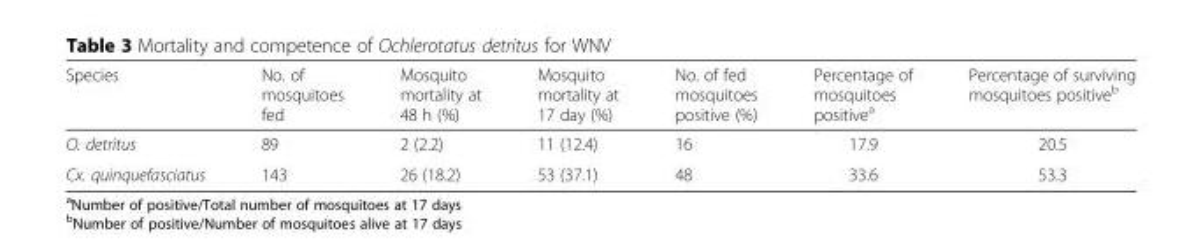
<table><thead><tr><td>Species</td><td>No. of mosquitoes fed</td><td>Mosquito mortality at 48 h (%)</td><td>Mosquito mortality at 17 day (%)</td><td>No. of fed mosquitoes positive (%)</td><td>Percentage of mosquitoes positive<sup>a</sup></td><td>Percentage of surviving mosquitoes positive<sup>b</sup></td></tr></thead><tbody><tr><td>O. detritus</td><td>89</td><td>2 (2.2)</td><td>11 (12.4)</td><td>16</td><td>17.9</td><td>20.5</td></tr><tr><td>Cx. quinquefasciatus</td><td>143</td><td>26 (18.2)</td><td>53 (37.1)</td><td>48</td><td>33.6</td><td>53.3</td></tr></tbody></table>